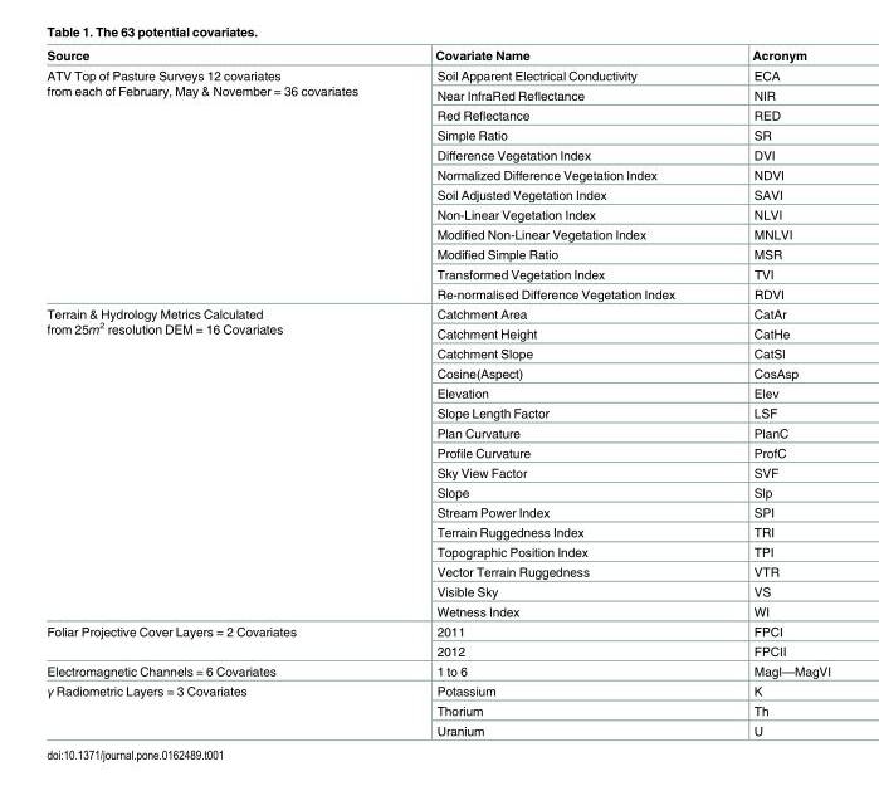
<table><thead><tr><td>Source</td><td>Covariate Name</td><td>Acronym</td></tr></thead><tbody><tr><td rowspan="12">ATV Top of Pasture Surveys 12 covariates from each of February, May &amp; November = 36 covariates</td><td>Soil Apparent Electrical Conductivity</td><td>ECA</td></tr><tr><td>Near InfraRed Reflectance</td><td>NIR</td></tr><tr><td>Red Reflectance</td><td>RED</td></tr><tr><td>Simple Ratio</td><td>SR</td></tr><tr><td>Difference Vegetation Index</td><td>DVI</td></tr><tr><td>Normalized Difference Vegetation Index</td><td>NDVI</td></tr><tr><td>Soil Adjusted Vegetation Index</td><td>SAVI</td></tr><tr><td>Non-Linear Vegetation Index</td><td>NLVI</td></tr><tr><td>Modified Non-Linear Vegetation Index</td><td>MNLVI</td></tr><tr><td>Modified Simple Ratio</td><td>MSR</td></tr><tr><td>Transformed Vegetation Index</td><td>TVI</td></tr><tr><td>Re-normalised Difference Vegetation Index</td><td>RDVI</td></tr><tr><td rowspan="16">Terrain &amp; Hydrology Metrics Calculated from 25m<sup>2</sup> resolution DEM = 16 Covariates</td><td>Catchment Area</td><td>CatAr</td></tr><tr><td>Catchment Height</td><td>CatHe</td></tr><tr><td>Catchment Slope</td><td>CatSl</td></tr><tr><td>Cosine(Aspect)</td><td>CosAsp</td></tr><tr><td>Elevation</td><td>Elev</td></tr><tr><td>Slope Length Factor</td><td>LSF</td></tr><tr><td>Plan Curvature</td><td>PlanC</td></tr><tr><td>Profile Curvature</td><td>ProfC</td></tr><tr><td>Sky View Factor</td><td>SVF</td></tr><tr><td>Slope</td><td>Slp</td></tr><tr><td>Stream Power Index</td><td>SPI</td></tr><tr><td>Terrain Ruggedness Index</td><td>TRI</td></tr><tr><td>Topographic Position Index</td><td>TPI</td></tr><tr><td>Vector Terrain Ruggedness</td><td>VTR</td></tr><tr><td>Visible Sky</td><td>VS</td></tr><tr><td>Wetness Index</td><td>WI</td></tr><tr><td rowspan="2">Foliar Projective Cover Layers = 2 Covariates</td><td>2011</td><td>FPCI</td></tr><tr><td>2012</td><td>FPCII</td></tr><tr><td>Electromagnetic Channels = 6 Covariates</td><td>1 to 6</td><td>MagI—MagVI</td></tr><tr><td rowspan="3">γ Radiometric Layers = 3 Covariates</td><td>Potassium</td><td>K</td></tr><tr><td>Thorium</td><td>Th</td></tr><tr><td>Uranium</td><td>U</td></tr></tbody></table>